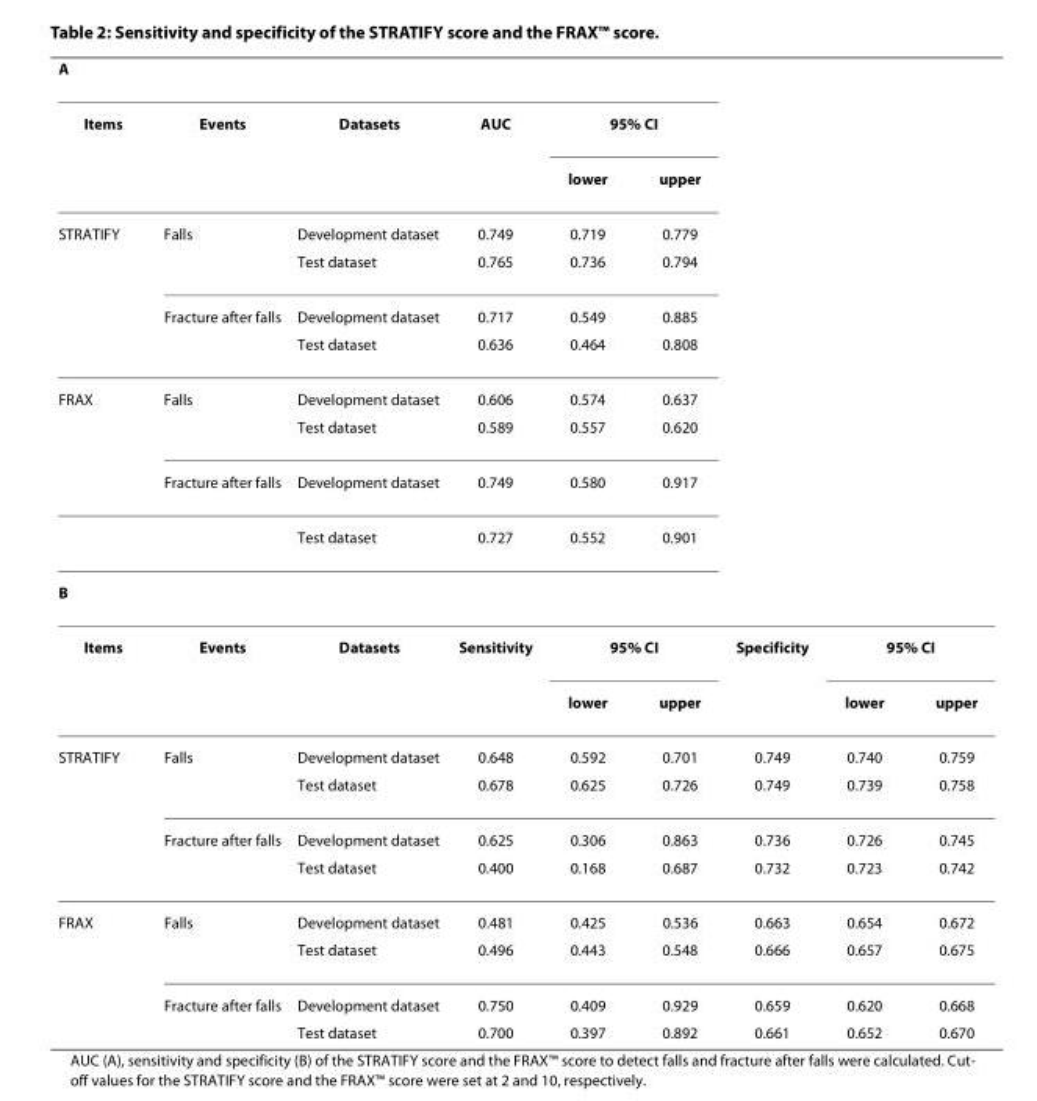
<table><thead><tr><td colspan="9">A</td></tr><tr><td rowspan="10">Items STRATIFY FRAX</td><td rowspan="10">Events Falls Fracture after falls Falls Fracture after falls</td><td rowspan="10">Datasets Development dataset Test dataset Development dataset Test dataset Development dataset Test dataset Development dataset Test dataset</td><td rowspan="10">AUC 0.749 0.765 0.717 0.636 0.606 0.589 0.749 0.727</td><td colspan="2">95% CI</td><td rowspan="10"></td><td rowspan="10"></td><td rowspan="10"></td></tr><tr><td rowspan="9">lower 0.719 0.736 0.549 0.464 0.574 0.557 0.580 0.552</td><td rowspan="9">upper 0.779 0.794 0.885 0.808 0.637 0.620 0.917 0.901</td></tr><tr></tr><tr></tr><tr></tr><tr></tr><tr></tr><tr></tr><tr></tr><tr></tr><tr><td colspan="9">B</td></tr></thead><tbody><tr><td rowspan="2">Items</td><td>Events</td><td>Datasets</td><td>Sensitivity</td><td colspan="2">95% CI</td><td>Specificity</td><td colspan="2">95% CI</td></tr><tr><td></td><td></td><td></td><td>lower</td><td>upper</td><td></td><td>lower</td><td>upper</td></tr><tr><td rowspan="4">STRATIFY</td><td>Falls</td><td>Development dataset</td><td>0.648</td><td>0.592</td><td>0.701</td><td>0.749</td><td>0.740</td><td>0.759</td></tr><tr><td></td><td>Test dataset</td><td>0.678</td><td>0.625</td><td>0.726</td><td>0.749</td><td>0.739</td><td>0.758</td></tr><tr><td>Fracture after falls</td><td>Development dataset</td><td>0.625</td><td>0.306</td><td>0.863</td><td>0.736</td><td>0.726</td><td>0.745</td></tr><tr><td></td><td>Test dataset</td><td>0.400</td><td>0.168</td><td>0.687</td><td>0.732</td><td>0.723</td><td>0.742</td></tr><tr><td rowspan="4">FRAX</td><td>Falls</td><td>Development dataset</td><td>0.481</td><td>0.425</td><td>0.536</td><td>0.663</td><td>0.654</td><td>0.672</td></tr><tr><td></td><td>Test dataset</td><td>0.496</td><td>0.443</td><td>0.548</td><td>0.666</td><td>0.657</td><td>0.675</td></tr><tr><td>Fracture after falls</td><td>Development dataset</td><td>0.750</td><td>0.409</td><td>0.929</td><td>0.659</td><td>0.620</td><td>0.668</td></tr><tr><td></td><td>Test dataset</td><td>0.700</td><td>0.397</td><td>0.892</td><td>0.661</td><td>0.652</td><td>0.670</td></tr></tbody></table>